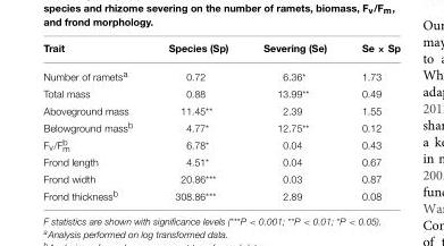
<table><thead><tr><td>Trait</td><td>Species (Sp)</td><td>Severing (Se)</td><td>Se × Sp</td></tr></thead><tbody><tr><td>Number of ramets<sup>a</sup></td><td>0.72</td><td>6.36*</td><td>1.73</td></tr><tr><td>Total mass</td><td>0.88</td><td>13.99**</td><td>0.49</td></tr><tr><td>Aboveground mass</td><td>11.45**</td><td>2.39</td><td>1.55</td></tr><tr><td>Belowground mass<sup>b</sup></td><td>4.77*</td><td>12.75**</td><td>0.12</td></tr><tr><td>Fv/Fbm</td><td>6.78*</td><td>0.04</td><td>0.43</td></tr><tr><td>Frond length</td><td>4.51*</td><td>0.04</td><td>0.67</td></tr><tr><td>Frond width</td><td>20.86***</td><td>0.03</td><td>0.87</td></tr><tr><td>Frond thickness<sup>b</sup></td><td>308.86***</td><td>2.89</td><td>0.08</td></tr></tbody></table>